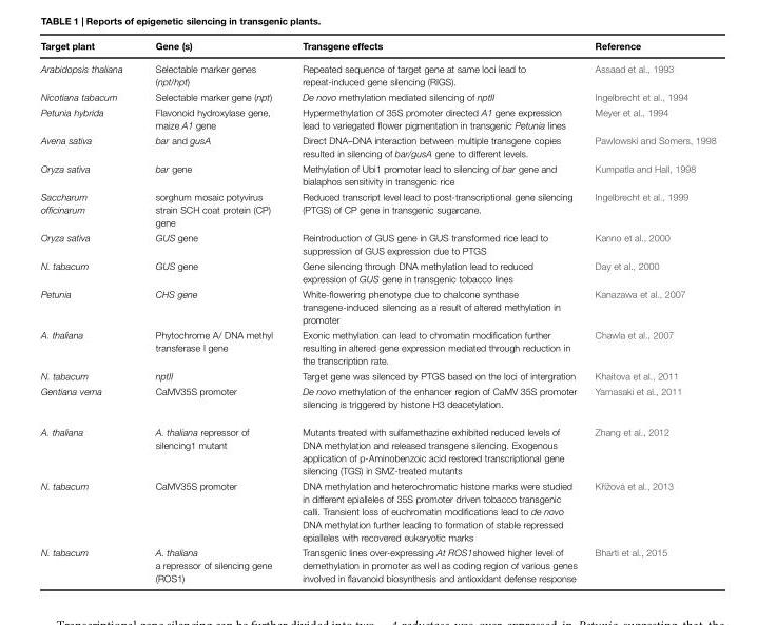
<table><thead><tr><td>Target plant</td><td>Gene (s)</td><td>Transgene effects</td><td>Reference</td></tr></thead><tbody><tr><td>Arabidopsis thaliana</td><td>Selectable marker genes (npt/hpt)</td><td>Repeated sequence of target gene at same loci lead to repeat-induced gene silencing (RIGS).</td><td>Assaad et al., 1993</td></tr><tr><td>Nicotiana tabacum</td><td>Selectable marker gene (npt)</td><td>De novo methylation mediated silencing of nptII</td><td>Ingelbrecht et al., 1994</td></tr><tr><td>Petunia hybrida</td><td>Flavonoid hydroxylase gene, maize A1 gene</td><td>Hypermethylation of 35S promoter directed A1 gene expression lead to variegated flower pigmentation in transgenic Petunia lines</td><td>Meyer et al., 1994</td></tr><tr><td>Avena sativa</td><td>bar and gusA</td><td>Direct DNA–DNA interaction between multiple transgene copies resulted in silencing of bar/gusA gene to different levels.</td><td>Pawlowski and Somers, 1998</td></tr><tr><td>Oryza sativa</td><td>bar gene</td><td>Methylation of Ubi1 promoter lead to silencing of bar gene and bialaphos sensitivity in transgenic rice</td><td>Kumpatla and Hall, 1998</td></tr><tr><td>Saccharum officinarum</td><td>sorghum mosaic potyvirus strain SCH coat protein (CP) gene</td><td>Reduced transcript level lead to post-transcriptional gene silencing (PTGS) of CP gene in transgenic sugarcane.</td><td>Ingelbrecht et al., 1999</td></tr><tr><td>Oryza sativa</td><td>GUS gene</td><td>Reintroduction of GUS gene in GUS transformed rice lead to suppression of GUS expression due to PTGS</td><td>Kanno et al., 2000</td></tr><tr><td>N. tabacum</td><td>GUS gene</td><td>Gene silencing through DNA methylation lead to reduced expression of GUS gene in transgenic tobacco lines</td><td>Day et al., 2000</td></tr><tr><td>Petunia</td><td>CHS gene</td><td>White-flowering phenotype due to chalcone synthase transgene-induced silencing as a result of altered methylation in promoter</td><td>Kanazawa et al., 2007</td></tr><tr><td>A. thaliana</td><td>Phytochrome A/ DNA methyl transferase I gene</td><td>Exonic methylation can lead to chromatin modification further resulting in altered gene expression mediated through reduction in the transcription rate.</td><td>Chawla et al., 2007</td></tr><tr><td>N. tabacum</td><td>nptII</td><td>Target gene was silenced by PTGS based on the loci of intergration</td><td>Khaitova et al., 2011</td></tr><tr><td>Gentiana verna</td><td>CaMV35S promoter</td><td>De novo methylation of the enhancer region of CaMV 35S promoter silencing is triggered by histone H3 deacetylation.</td><td>Yamasaki et al., 2011</td></tr><tr><td>A. thaliana</td><td>A. thaliana repressor of silencing1 mutant</td><td>Mutants treated with sulfamethazine exhibited reduced levels of DNA methylation and released transgene silencing. Exogenous application of p-Aminobenzoic acid restored transcriptional gene silencing (TGS) in SMZ-treated mutants</td><td>Zhang et al., 2012</td></tr><tr><td>N. tabacum</td><td>CaMV35S promoter</td><td>DNA methylation and heterochromatic histone marks were studied in different epialleles of 35S promoter driven tobacco transgenic calli. Transient loss of euchromatin modifications lead to de novo DNA methylation further leading to formation of stable repressed epialleles with recovered eukaryotic marks</td><td>Kˇrížová et al., 2013</td></tr><tr><td>N. tabacum</td><td>A. thaliana a repressor of silencing gene (ROS1)</td><td>Transgenic lines over-expressing At ROS1showed higher level of demethylation in promoter as well as coding region of various genes involved in flavanoid biosynthesis and antioxidant defense response</td><td>Bharti et al., 2015</td></tr></tbody></table>